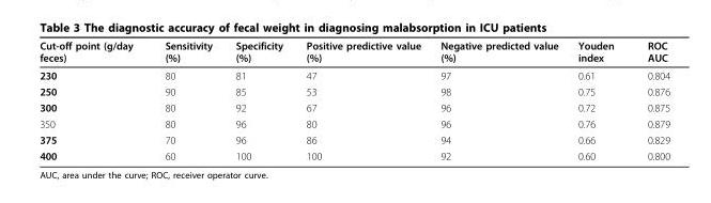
<table><thead><tr><td>Cut-off point (g/day feces)</td><td>Sensitivity (%)</td><td>Specificity (%)</td><td>Positive predictive value (%)</td><td>Negative predicted value (%)</td><td>Youden index</td><td>ROC AUC</td></tr></thead><tbody><tr><td>230</td><td>80</td><td>81</td><td>47</td><td>97</td><td>0.61</td><td>0.804</td></tr><tr><td>250</td><td>90</td><td>85</td><td>53</td><td>98</td><td>0.75</td><td>0.876</td></tr><tr><td>300</td><td>80</td><td>92</td><td>67</td><td>96</td><td>0.72</td><td>0.875</td></tr><tr><td>350</td><td>80</td><td>96</td><td>80</td><td>96</td><td>0.76</td><td>0.879</td></tr><tr><td>375</td><td>70</td><td>96</td><td>86</td><td>94</td><td>0.66</td><td>0.829</td></tr><tr><td>400</td><td>60</td><td>100</td><td>100</td><td>92</td><td>0.60</td><td>0.800</td></tr></tbody></table>